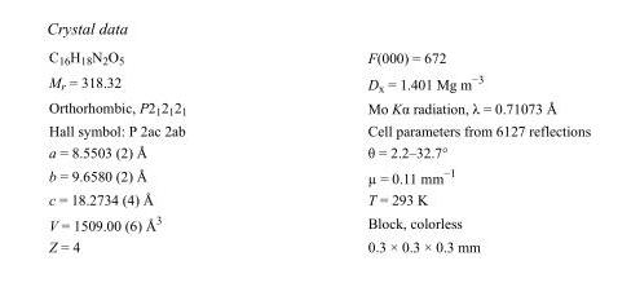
<table><tbody><tr><td>C<sub>16</sub>H<sub>18</sub>N<sub>2</sub>O<sub>5</sub></td><td>F(000) = 672</td></tr><tr><td>M<sub>r</sub> = 318.32</td><td>D<sub>x</sub> = 1.401 Mg m<sup>−3</sup></td></tr><tr><td>Orthorhombic, P2<sub>1</sub>2<sub>1</sub>2<sub>1</sub></td><td>Mo Kα radiation, λ = 0.71073 Å</td></tr><tr><td>Hall symbol: P 2ac 2ab</td><td>Cell parameters from 6127 reflections</td></tr><tr><td>a = 8.5503 (2) Å</td><td>θ = 2.2–32.7°</td></tr><tr><td>b = 9.6580 (2) Å</td><td>µ = 0.11 mm<sup>−1</sup></td></tr><tr><td>c = 18.2734 (4) Å</td><td>T = 293 K</td></tr><tr><td>V = 1509.00 (6) Å<sup>3</sup></td><td>Block, colorless</td></tr><tr><td>Z = 4</td><td>0.3 × 0.3 × 0.3 mm</td></tr></tbody></table>